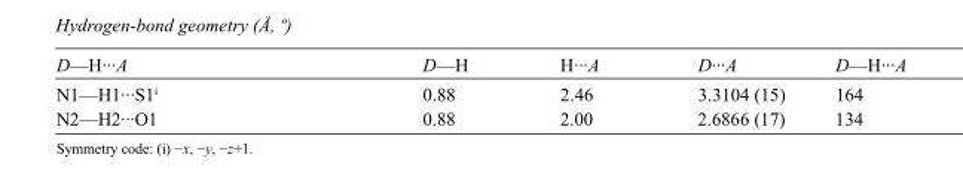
<table><tbody><tr><td>D—H···A</td><td>D—H</td><td>H···A</td><td>D···A</td><td>D—H···A</td></tr><tr><td>N1—H1···S1<sup>i</sup></td><td>0.88</td><td>2.46</td><td>3.3104 (15)</td><td>164</td></tr><tr><td>N2—H2···O1</td><td>0.88</td><td>2.00</td><td>2.6866 (17)</td><td>134</td></tr></tbody></table>